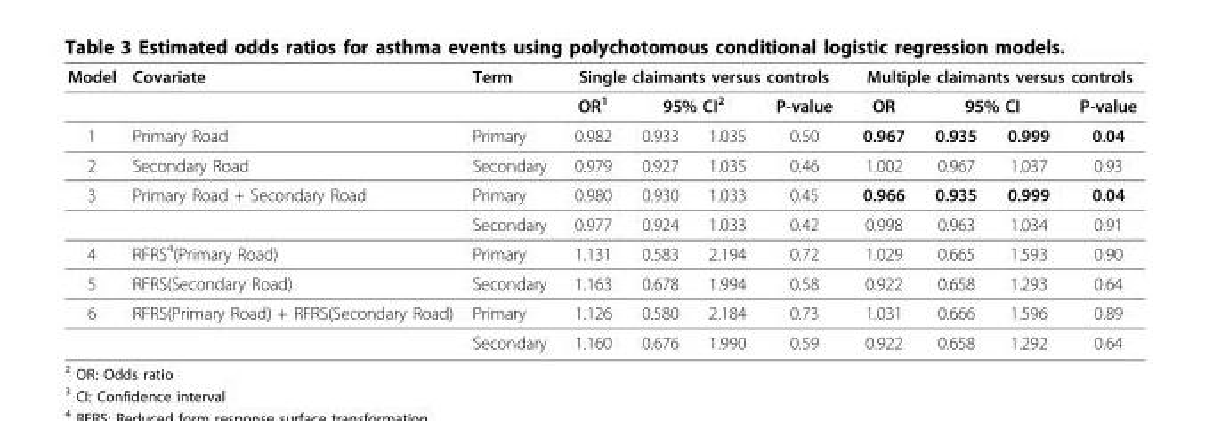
<table><thead><tr><td rowspan="3">Model 1</td><td rowspan="3">Covariate Primary Road</td><td rowspan="3">Term Primary</td><td colspan="4">Single claimants versus controls</td><td colspan="4">Multiple claimants versus controls</td></tr><tr><td rowspan="2">OR1 0.982</td><td colspan="2">95% CI2</td><td rowspan="2">P-value 0.50</td><td rowspan="2">OR 0.967</td><td colspan="2">95% CI</td><td rowspan="2">P-value 0.04</td></tr><tr><td>0.933</td><td>1.035</td><td>0.935</td><td>0.999</td></tr></thead><tbody><tr><td>2</td><td>Secondary Road</td><td>Secondary</td><td>0.979</td><td>0.927</td><td>1.035</td><td>0.46</td><td>1.002</td><td>0.967</td><td>1.037</td><td>0.93</td></tr><tr><td rowspan="2">3</td><td>Primary Road + Secondary Road</td><td>Primary</td><td>0.980</td><td>0.930</td><td>1.033</td><td>0.45</td><td>0.966</td><td>0.935</td><td>0.999</td><td>0.04</td></tr><tr><td></td><td>Secondary</td><td>0.977</td><td>0.924</td><td>1.033</td><td>0.42</td><td>0.998</td><td>0.963</td><td>1.034</td><td>0.91</td></tr><tr><td>4</td><td>RFRS<sup>4</sup>(Primary Road)</td><td>Primary</td><td>1.131</td><td>0.583</td><td>2.194</td><td>0.72</td><td>1.029</td><td>0.665</td><td>1.593</td><td>0.90</td></tr><tr><td>5</td><td>RFRS(Secondary Road)</td><td>Secondary</td><td>1.163</td><td>0.678</td><td>1.994</td><td>0.58</td><td>0.922</td><td>0.658</td><td>1.293</td><td>0.64</td></tr><tr><td rowspan="2">6</td><td>RFRS(Primary Road) + RFRS(Secondary Road)</td><td>Primary</td><td>1.126</td><td>0.580</td><td>2.184</td><td>0.73</td><td>1.031</td><td>0.666</td><td>1.596</td><td>0.89</td></tr><tr><td></td><td>Secondary</td><td>1.160</td><td>0.676</td><td>1.990</td><td>0.59</td><td>0.922</td><td>0.658</td><td>1.292</td><td>0.64</td></tr></tbody></table>